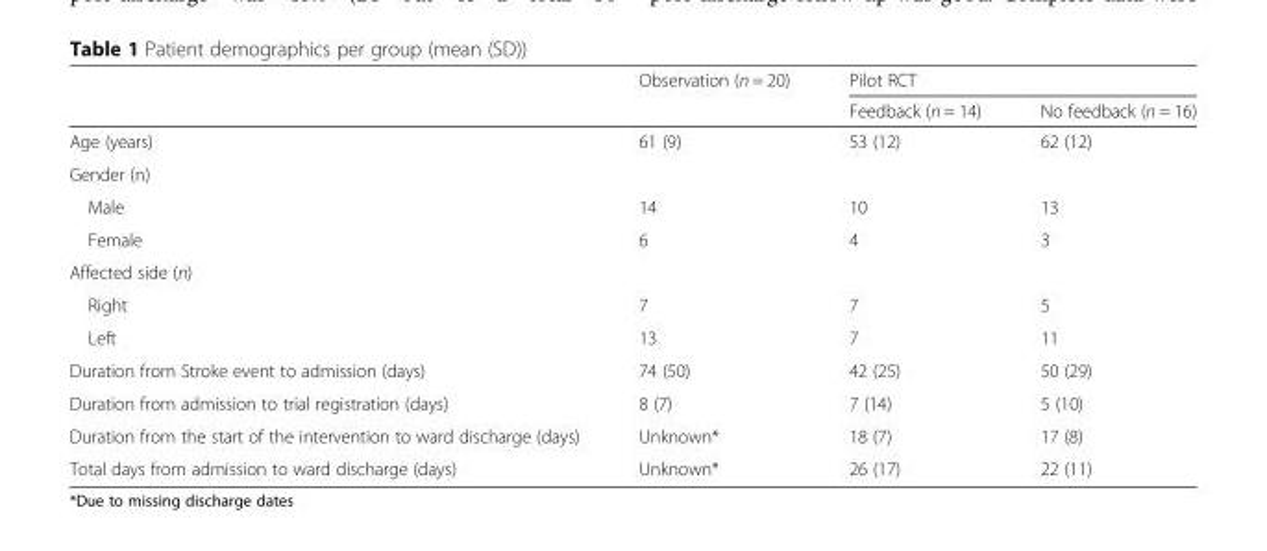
<table><thead><tr><td rowspan="2"></td><td rowspan="2">Observation (n = 20)</td><td colspan="2">Pilot RCT</td></tr><tr><td>Feedback (n = 14)</td><td>No feedback (n = 16)</td></tr></thead><tbody><tr><td>Age (years)</td><td>61 (9)</td><td>53 (12)</td><td>62 (12)</td></tr><tr><td colspan="4">Gender (n)</td></tr><tr><td>Male</td><td>14</td><td>10</td><td>13</td></tr><tr><td>Female</td><td>6</td><td>4</td><td>3</td></tr><tr><td colspan="4">Affected side (n)</td></tr><tr><td>Right</td><td>7</td><td>7</td><td>5</td></tr><tr><td>Left</td><td>13</td><td>7</td><td>11</td></tr><tr><td>Duration from Stroke event to admission (days)</td><td>74 (50)</td><td>42 (25)</td><td>50 (29)</td></tr><tr><td>Duration from admission to trial registration (days)</td><td>8 (7)</td><td>7 (14)</td><td>5 (10)</td></tr><tr><td>Duration from the start of the intervention to ward discharge (days)</td><td>Unknown*</td><td>18 (7)</td><td>17 (8)</td></tr><tr><td>Total days from admission to ward discharge (days)</td><td>Unknown*</td><td>26 (17)</td><td>22 (11)</td></tr></tbody></table>